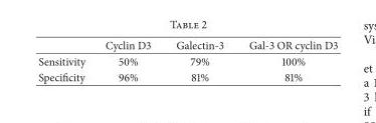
<table><thead><tr><td></td><td>Cyclin D3</td><td>Galectin-3</td><td>Gal-3 OR cyclin D3</td></tr></thead><tbody><tr><td>Sensitivity</td><td>50%</td><td>79%</td><td>100%</td></tr><tr><td>Specificity</td><td>96%</td><td>81%</td><td>81%</td></tr></tbody></table>